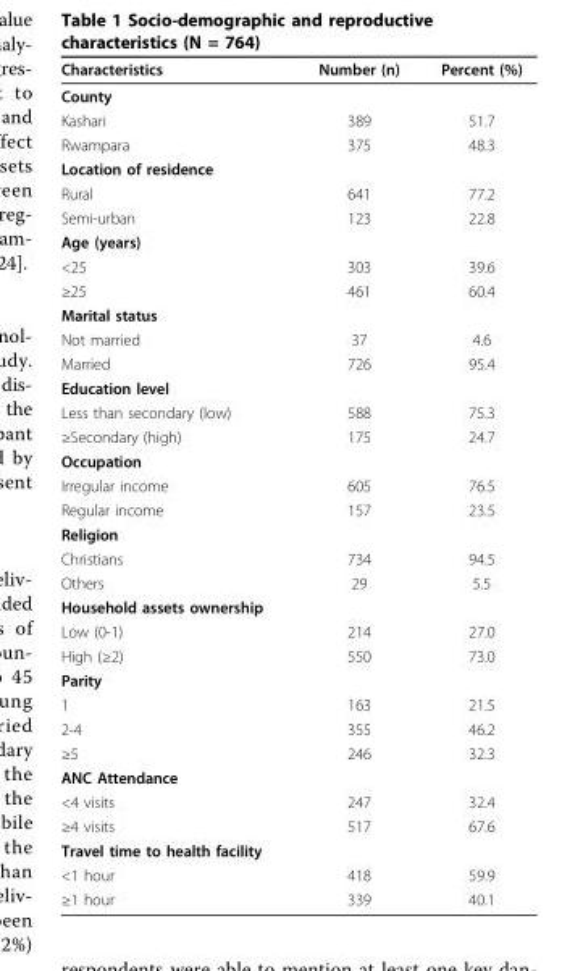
<table><thead><tr><td>Characteristics</td><td>Number (n)</td><td>Percent (%)</td></tr></thead><tbody><tr><td colspan="3">County</td></tr><tr><td>Kashari</td><td>389</td><td>51.7</td></tr><tr><td>Rwampara</td><td>375</td><td>48.3</td></tr><tr><td colspan="3">Location of residence</td></tr><tr><td>Rural</td><td>641</td><td>77.2</td></tr><tr><td>Semi-urban</td><td>123</td><td>22.8</td></tr><tr><td colspan="3">Age (years)</td></tr><tr><td>&lt;25</td><td>303</td><td>39.6</td></tr><tr><td>≥25</td><td>461</td><td>60.4</td></tr><tr><td colspan="3">Marital status</td></tr><tr><td>Not married</td><td>37</td><td>4.6</td></tr><tr><td>Married</td><td>726</td><td>95.4</td></tr><tr><td colspan="3">Education level</td></tr><tr><td>Less than secondary (low)</td><td>588</td><td>75.3</td></tr><tr><td>≥Secondary (high)</td><td>175</td><td>24.7</td></tr><tr><td colspan="3">Occupation</td></tr><tr><td>Irregular income</td><td>605</td><td>76.5</td></tr><tr><td>Regular income</td><td>157</td><td>23.5</td></tr><tr><td colspan="3">Religion</td></tr><tr><td>Christians</td><td>734</td><td>94.5</td></tr><tr><td>Others</td><td>29</td><td>5.5</td></tr><tr><td colspan="3">Household assets ownership</td></tr><tr><td>Low (0-1)</td><td>214</td><td>27.0</td></tr><tr><td>High (≥2)</td><td>550</td><td>73.0</td></tr><tr><td colspan="3">Parity</td></tr><tr><td>1</td><td>163</td><td>21.5</td></tr><tr><td>2-4</td><td>355</td><td>46.2</td></tr><tr><td>≥5</td><td>246</td><td>32.3</td></tr><tr><td colspan="3">ANC Attendance</td></tr><tr><td>&lt;4 visits</td><td>247</td><td>32.4</td></tr><tr><td>≥4 visits</td><td>517</td><td>67.6</td></tr><tr><td colspan="3">Travel time to health facility</td></tr><tr><td>&lt;1 hour</td><td>418</td><td>59.9</td></tr><tr><td>≥1 hour</td><td>339</td><td>40.1</td></tr></tbody></table>